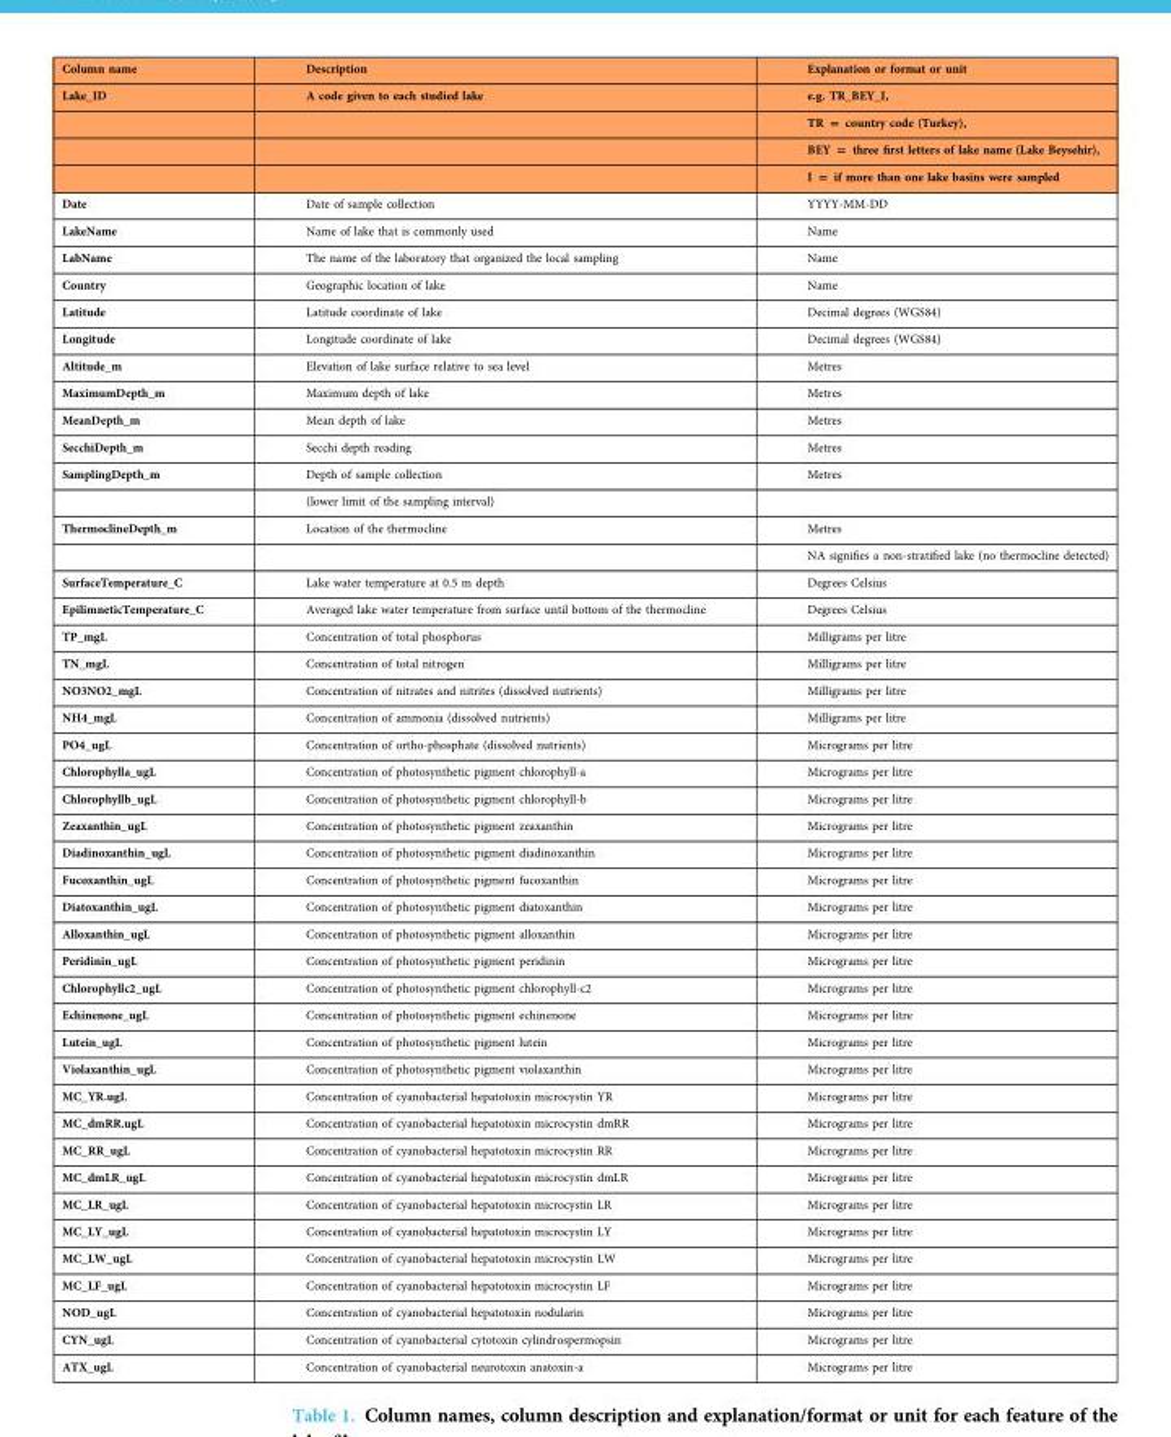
<table><thead><tr><td rowspan="5">Column name Lake_ID</td><td rowspan="5">Description A code given to each studied lake</td><td rowspan="5">Explanation or format or unit e.g. TR_BEY_I, TR = country code (Turkey), BEY = three first letters of lake name (Lake Beysehir), I = if more than one lake basins were sampled</td></tr><tr></tr><tr></tr><tr></tr><tr></tr></thead><tbody><tr><td>Date</td><td>Date of sample collection</td><td>YYYY-MM-DD</td></tr><tr><td>LakeName</td><td>Name of lake that is commonly used</td><td>Name</td></tr><tr><td>LabName</td><td>The name of the laboratory that organized the local sampling</td><td>Name</td></tr><tr><td>Country</td><td>Geographic location of lake</td><td>Name</td></tr><tr><td>Latitude</td><td>Latitude coordinate of lake</td><td>Decimal degrees (WGS84)</td></tr><tr><td>Longitude</td><td>Longitude coordinate of lake</td><td>Decimal degrees (WGS84)</td></tr><tr><td>Altitude_m</td><td>Elevation of lake surface relative to sea level</td><td>Metres</td></tr><tr><td>MaximumDepth_m</td><td>Maximum depth of lake</td><td>Metres</td></tr><tr><td>MeanDepth_m</td><td>Mean depth of lake</td><td>Metres</td></tr><tr><td>SecchiDepth_m</td><td>Secchi depth reading</td><td>Metres</td></tr><tr><td rowspan="2">SamplingDepth_m</td><td>Depth of sample collection</td><td>Metres</td></tr><tr><td>(lower limit of the sampling interval)</td><td></td></tr><tr><td rowspan="2">ThermoclineDepth_m</td><td>Location of the thermocline</td><td>Metres</td></tr><tr><td></td><td>NA signifies a non-stratified lake (no thermocline detected)</td></tr><tr><td>SurfaceTemperature_C</td><td>Lake water temperature at 0.5 m depth</td><td>Degrees Celsius</td></tr><tr><td>EpilimneticTemperature_C</td><td>Averaged lake water temperature from surface until bottom of the thermocline</td><td>Degrees Celsius</td></tr><tr><td>TP_mgL</td><td>Concentration of total phosphorus</td><td>Milligrams per litre</td></tr><tr><td>TN_mgL</td><td>Concentration of total nitrogen</td><td>Milligrams per litre</td></tr><tr><td>NO3NO2_mgL</td><td>Concentration of nitrates and nitrites (dissolved nutrients)</td><td>Milligrams per litre</td></tr><tr><td>NH4_mgL</td><td>Concentration of ammonia (dissolved nutrients)</td><td>Milligrams per litre</td></tr><tr><td>PO4_ugL</td><td>Concentration of ortho-phosphate (dissolved nutrients)</td><td>Micrograms per litre</td></tr><tr><td>Chlorophylla_ugL</td><td>Concentration of photosynthetic pigment chlorophyll-a</td><td>Micrograms per litre</td></tr><tr><td>Chlorophyllb_ugL</td><td>Concentration of photosynthetic pigment chlorophyll-b</td><td>Micrograms per litre</td></tr><tr><td>Zeaxanthin_ugL</td><td>Concentration of photosynthetic pigment zeaxanthin</td><td>Micrograms per litre</td></tr><tr><td>Diadinoxanthin_ugL</td><td>Concentration of photosynthetic pigment diadinoxanthin</td><td>Micrograms per litre</td></tr><tr><td>Fucoxanthin_ugL</td><td>Concentration of photosynthetic pigment fucoxanthin</td><td>Micrograms per litre</td></tr><tr><td>Diatoxanthin_ugL</td><td>Concentration of photosynthetic pigment diatoxanthin</td><td>Micrograms per litre</td></tr><tr><td>Alloxanthin_ugL</td><td>Concentration of photosynthetic pigment alloxanthin</td><td>Micrograms per litre</td></tr><tr><td>Peridinin_ugL</td><td>Concentration of photosynthetic pigment peridinin</td><td>Micrograms per litre</td></tr><tr><td>Chlorophyllc2_ugL</td><td>Concentration of photosynthetic pigment chlorophyll-c2</td><td>Micrograms per litre</td></tr><tr><td>Echinenone_ugL</td><td>Concentration of photosynthetic pigment echinenone</td><td>Micrograms per litre</td></tr><tr><td>Lutein_ugL</td><td>Concentration of photosynthetic pigment lutein</td><td>Micrograms per litre</td></tr><tr><td>Violaxanthin_ugL</td><td>Concentration of photosynthetic pigment violaxanthin</td><td>Micrograms per litre</td></tr><tr><td>MC_YR.ugL</td><td>Concentration of cyanobacterial hepatotoxin microcystin YR</td><td>Micrograms per litre</td></tr><tr><td>MC_dmRR.ugL</td><td>Concentration of cyanobacterial hepatotoxin microcystin dmRR</td><td>Micrograms per litre</td></tr><tr><td>MC_RR_ugL</td><td>Concentration of cyanobacterial hepatotoxin microcystin RR</td><td>Micrograms per litre</td></tr><tr><td>MC_dmLR_ugL</td><td>Concentration of cyanobacterial hepatotoxin microcystin dmLR</td><td>Micrograms per litre</td></tr><tr><td>MC_LR_ugL</td><td>Concentration of cyanobacterial hepatotoxin microcystin LR</td><td>Micrograms per litre</td></tr><tr><td>MC_LY_ugL</td><td>Concentration of cyanobacterial hepatotoxin microcystin LY</td><td>Micrograms per litre</td></tr><tr><td>MC_LW_ugL</td><td>Concentration of cyanobacterial hepatotoxin microcystin LW</td><td>Micrograms per litre</td></tr><tr><td>MC_LF_ugL</td><td>Concentration of cyanobacterial hepatotoxin microcystin LF</td><td>Micrograms per litre</td></tr><tr><td>NOD_ugL</td><td>Concentration of cyanobacterial hepatotoxin nodularin</td><td>Micrograms per litre</td></tr><tr><td>CYN_ugL</td><td>Concentration of cyanobacterial cytotoxin cylindrospermopsin</td><td>Micrograms per litre</td></tr><tr><td>ATX_ugL</td><td>Concentration of cyanobacterial neurotoxin anatoxin-a</td><td>Micrograms per litre</td></tr></tbody></table>